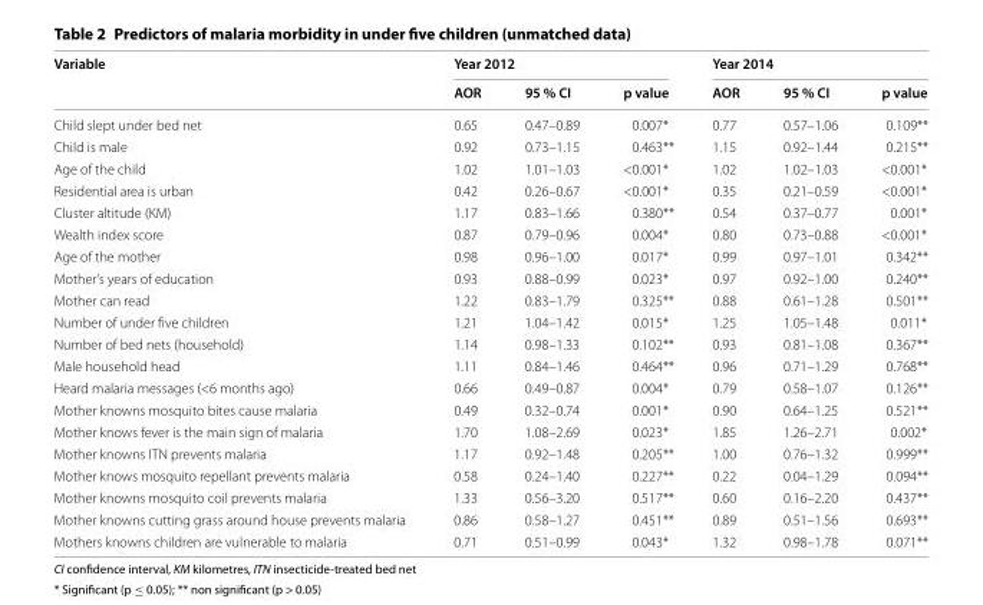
<table><thead><tr><td rowspan="2">Variable</td><td colspan="3">Year 2012</td><td colspan="3">Year 2014</td></tr><tr><td>AOR</td><td>95 % CI</td><td>p value</td><td>AOR</td><td>95 % CI</td><td>p value</td></tr></thead><tbody><tr><td>Child slept under bed net</td><td>0.65</td><td>0.47–0.89</td><td>0.007*</td><td>0.77</td><td>0.57–1.06</td><td>0.109**</td></tr><tr><td>Child is male</td><td>0.92</td><td>0.73–1.15</td><td>0.463**</td><td>1.15</td><td>0.92–1.44</td><td>0.215**</td></tr><tr><td>Age of the child</td><td>1.02</td><td>1.01–1.03</td><td>&lt;0.001*</td><td>1.02</td><td>1.02–1.03</td><td>&lt;0.001*</td></tr><tr><td>Residential area is urban</td><td>0.42</td><td>0.26–0.67</td><td>&lt;0.001*</td><td>0.35</td><td>0.21–0.59</td><td>&lt;0.001*</td></tr><tr><td>Cluster altitude (KM)</td><td>1.17</td><td>0.83–1.66</td><td>0.380**</td><td>0.54</td><td>0.37–0.77</td><td>0.001*</td></tr><tr><td>Wealth index score</td><td>0.87</td><td>0.79–0.96</td><td>0.004*</td><td>0.80</td><td>0.73–0.88</td><td>&lt;0.001*</td></tr><tr><td>Age of the mother</td><td>0.98</td><td>0.96–1.00</td><td>0.017*</td><td>0.99</td><td>0.97–1.01</td><td>0.342**</td></tr><tr><td>Mother’s years of education</td><td>0.93</td><td>0.88–0.99</td><td>0.023*</td><td>0.97</td><td>0.92–1.00</td><td>0.240**</td></tr><tr><td>Mother can read</td><td>1.22</td><td>0.83–1.79</td><td>0.325**</td><td>0.88</td><td>0.61–1.28</td><td>0.501**</td></tr><tr><td>Number of under five children</td><td>1.21</td><td>1.04–1.42</td><td>0.015*</td><td>1.25</td><td>1.05–1.48</td><td>0.011*</td></tr><tr><td>Number of bed nets (household)</td><td>1.14</td><td>0.98–1.33</td><td>0.102**</td><td>0.93</td><td>0.81–1.08</td><td>0.367**</td></tr><tr><td>Male household head</td><td>1.11</td><td>0.84–1.46</td><td>0.464**</td><td>0.96</td><td>0.71–1.29</td><td>0.768**</td></tr><tr><td>Heard malaria messages (&lt;6 months ago)</td><td>0.66</td><td>0.49–0.87</td><td>0.004*</td><td>0.79</td><td>0.58–1.07</td><td>0.126**</td></tr><tr><td>Mother knowns mosquito bites cause malaria</td><td>0.49</td><td>0.32–0.74</td><td>0.001*</td><td>0.90</td><td>0.64–1.25</td><td>0.521**</td></tr><tr><td>Mother knows fever is the main sign of malaria</td><td>1.70</td><td>1.08–2.69</td><td>0.023*</td><td>1.85</td><td>1.26–2.71</td><td>0.002*</td></tr><tr><td>Mother knowns ITN prevents malaria</td><td>1.17</td><td>0.92–1.48</td><td>0.205**</td><td>1.00</td><td>0.76–1.32</td><td>0.999**</td></tr><tr><td>Mother knows mosquito repellant prevents malaria</td><td>0.58</td><td>0.24–1.40</td><td>0.227**</td><td>0.22</td><td>0.04–1.29</td><td>0.094**</td></tr><tr><td>Mother knowns mosquito coil prevents malaria</td><td>1.33</td><td>0.56–3.20</td><td>0.517**</td><td>0.60</td><td>0.16–2.20</td><td>0.437**</td></tr><tr><td>Mother knowns cutting grass around house prevents malaria</td><td>0.86</td><td>0.58–1.27</td><td>0.451**</td><td>0.89</td><td>0.51–1.56</td><td>0.693**</td></tr><tr><td>Mothers knowns children are vulnerable to malaria</td><td>0.71</td><td>0.51–0.99</td><td>0.043*</td><td>1.32</td><td>0.98–1.78</td><td>0.071**</td></tr></tbody></table>